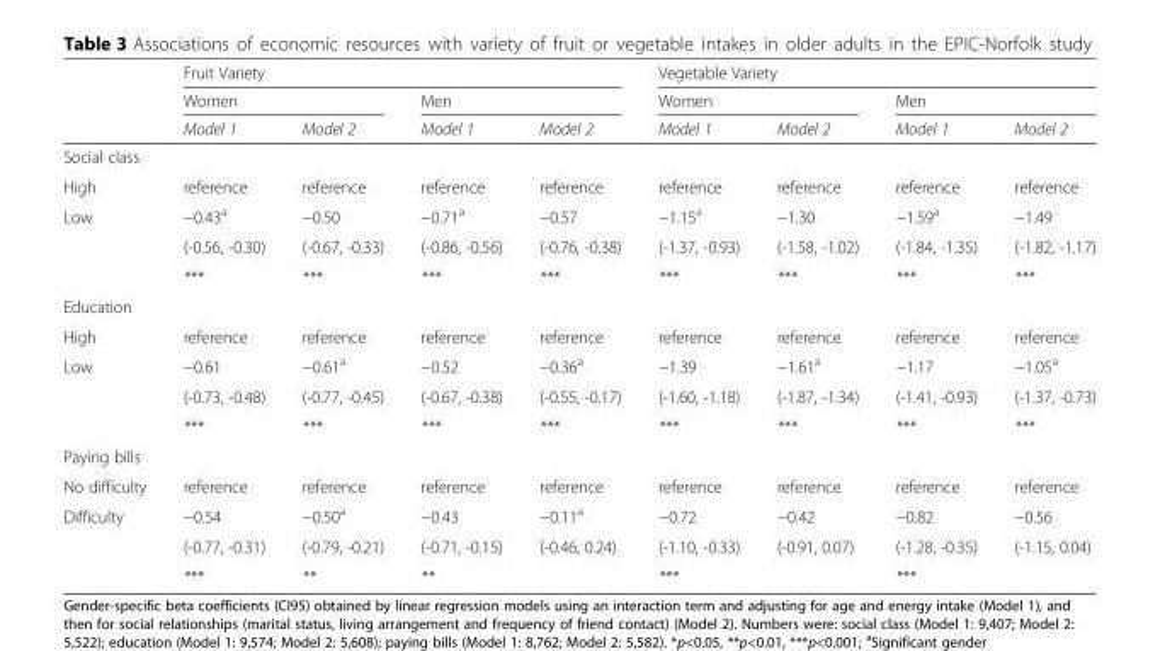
<table><thead><tr><td rowspan="3"></td><td colspan="4">Fruit Variety</td><td colspan="4">Vegetable Variety</td></tr><tr><td colspan="2">Women</td><td colspan="2">Men</td><td colspan="2">Women</td><td colspan="2">Men</td></tr><tr><td>Model 1</td><td>Model 2</td><td>Model 1</td><td>Model 2</td><td>Model 1</td><td>Model 2</td><td>Model 1</td><td>Model 2</td></tr></thead><tbody><tr><td colspan="9">Social class</td></tr><tr><td>High</td><td>reference</td><td>reference</td><td>reference</td><td>reference</td><td>reference</td><td>reference</td><td>reference</td><td>reference</td></tr><tr><td rowspan="3">Low</td><td>−0.43<sup>a</sup></td><td>−0.50</td><td>−0.71<sup>a</sup></td><td>−0.57</td><td>−1.15<sup>a</sup></td><td>−1.30</td><td>−1.59<sup>a</sup></td><td>−1.49</td></tr><tr><td>(-0.56, -0.30)</td><td>(-0.67, -0.33)</td><td>(-0.86, -0.56)</td><td>(-0.76, -0.38)</td><td>(-1.37, -0.93)</td><td>(-1.58, -1.02)</td><td>(-1.84, -1.35)</td><td>(-1.82, -1.17)</td></tr><tr><td>***</td><td>***</td><td>***</td><td>***</td><td>***</td><td>***</td><td>***</td><td>***</td></tr><tr><td colspan="9">Education</td></tr><tr><td>High</td><td>reference</td><td>reference</td><td>reference</td><td>reference</td><td>reference</td><td>reference</td><td>reference</td><td>reference</td></tr><tr><td rowspan="3">Low</td><td>−0.61</td><td>−0.61<sup>a</sup></td><td>−0.52</td><td>−0.36<sup>a</sup></td><td>−1.39</td><td>−1.61<sup>a</sup></td><td>−1.17</td><td>−1.05<sup>a</sup></td></tr><tr><td>(-0.73, -0.48)</td><td>(-0.77, -0.45)</td><td>(-0.67, -0.38)</td><td>(-0.55, -0.17)</td><td>(-1.60, -1.18)</td><td>(-1.87, -1.34)</td><td>(-1.41, -0.93)</td><td>(-1.37, -0.73)</td></tr><tr><td>***</td><td>***</td><td>***</td><td>***</td><td>***</td><td>***</td><td>***</td><td>***</td></tr><tr><td colspan="9">Paying bills</td></tr><tr><td>No difficulty</td><td>reference</td><td>reference</td><td>reference</td><td>reference</td><td>reference</td><td>reference</td><td>reference</td><td>reference</td></tr><tr><td rowspan="3">Difficulty</td><td>−0.54</td><td>−0.50<sup>a</sup></td><td>−0.43</td><td>−0.11<sup>a</sup></td><td>−0.72</td><td>−0.42</td><td>−0.82</td><td>−0.56</td></tr><tr><td>(-0.77, -0.31)</td><td>(-0.79, -0.21)</td><td>(-0.71, -0.15)</td><td>(-0.46, 0.24)</td><td>(-1.10, -0.33)</td><td>(-0.91, 0.07)</td><td>(-1.28, -0.35)</td><td>(-1.15, 0.04)</td></tr><tr><td>***</td><td>**</td><td>**</td><td></td><td colspan="2">***</td><td>***</td><td></td></tr></tbody></table>